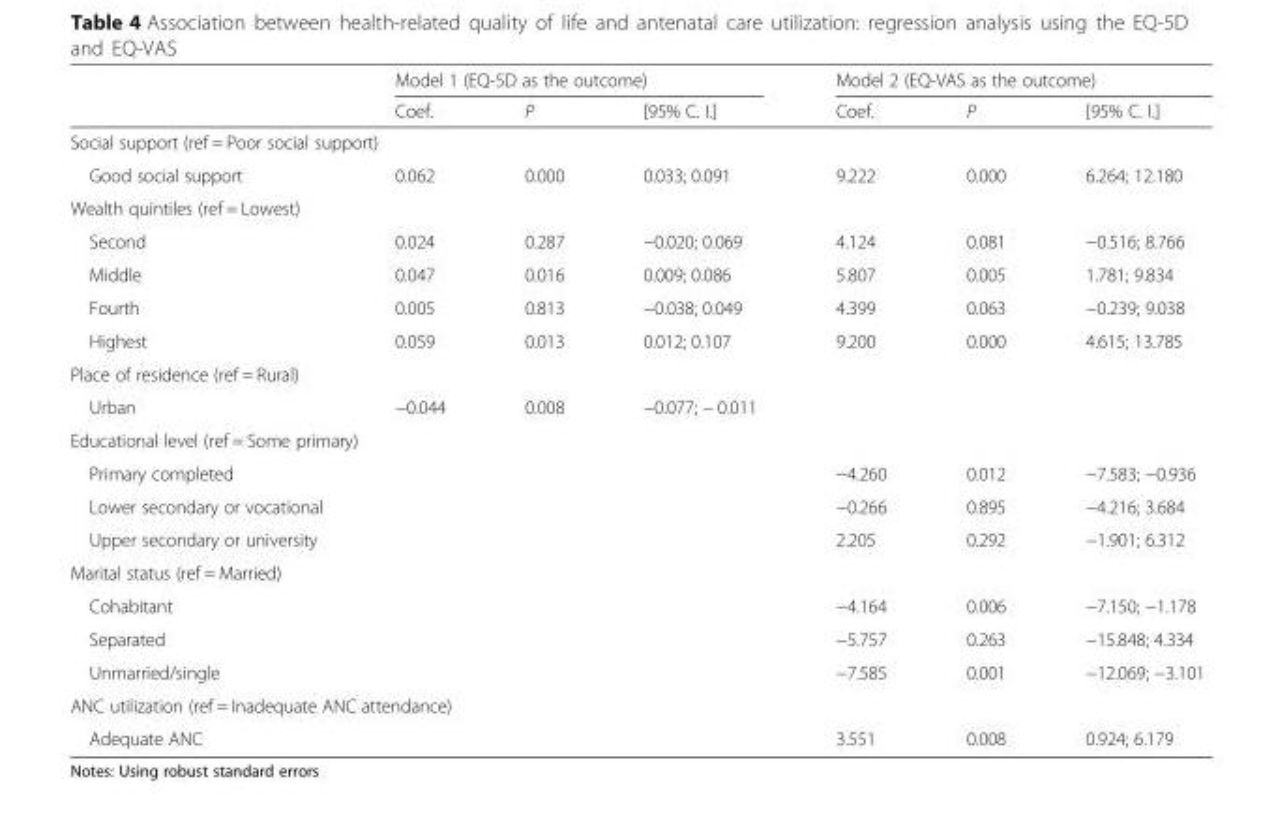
<table><thead><tr><td rowspan="2"></td><td colspan="3">Model 1 (EQ-5D as the outcome)</td><td colspan="3">Model 2 (EQ-VAS as the outcome)</td></tr><tr><td>Coef.</td><td>P</td><td>[95% C. I.]</td><td>Coef.</td><td>P</td><td>[95% C. I.]</td></tr></thead><tbody><tr><td colspan="7">Social support (ref = Poor social support)</td></tr><tr><td>Good social support</td><td>0.062</td><td>0.000</td><td>0.033; 0.091</td><td>9.222</td><td>0.000</td><td>6.264; 12.180</td></tr><tr><td colspan="7">Wealth quintiles (ref = Lowest)</td></tr><tr><td>Second</td><td>0.024</td><td>0.287</td><td>−0.020; 0.069</td><td>4.124</td><td>0.081</td><td>−0.516; 8.766</td></tr><tr><td>Middle</td><td>0.047</td><td>0.016</td><td>0.009; 0.086</td><td>5.807</td><td>0.005</td><td>1.781; 9.834</td></tr><tr><td>Fourth</td><td>0.005</td><td>0.813</td><td>−0.038; 0.049</td><td>4.399</td><td>0.063</td><td>−0.239; 9.038</td></tr><tr><td>Highest</td><td>0.059</td><td>0.013</td><td>0.012; 0.107</td><td>9.200</td><td>0.000</td><td>4.615; 13.785</td></tr><tr><td colspan="7">Place of residence (ref = Rural)</td></tr><tr><td>Urban</td><td>−0.044</td><td>0.008</td><td>−0.077; − 0.011</td><td></td><td></td><td></td></tr><tr><td colspan="7">Educational level (ref = Some primary)</td></tr><tr><td>Primary completed</td><td></td><td></td><td></td><td>−4.260</td><td>0.012</td><td>−7.583; −0.936</td></tr><tr><td>Lower secondary or vocational</td><td></td><td></td><td></td><td>−0.266</td><td>0.895</td><td>−4.216; 3.684</td></tr><tr><td>Upper secondary or university</td><td></td><td></td><td></td><td>2.205</td><td>0.292</td><td>−1.901; 6.312</td></tr><tr><td colspan="7">Marital status (ref = Married)</td></tr><tr><td>Cohabitant</td><td></td><td></td><td></td><td>−4.164</td><td>0.006</td><td>−7.150; −1.178</td></tr><tr><td>Separated</td><td></td><td></td><td></td><td>−5.757</td><td>0.263</td><td>−15.848; 4.334</td></tr><tr><td>Unmarried/single</td><td></td><td></td><td></td><td>−7.585</td><td>0.001</td><td>−12.069; −3.101</td></tr><tr><td colspan="7">ANC utilization (ref = Inadequate ANC attendance)</td></tr><tr><td>Adequate ANC</td><td></td><td></td><td></td><td>3.551</td><td>0.008</td><td>0.924; 6.179</td></tr></tbody></table>